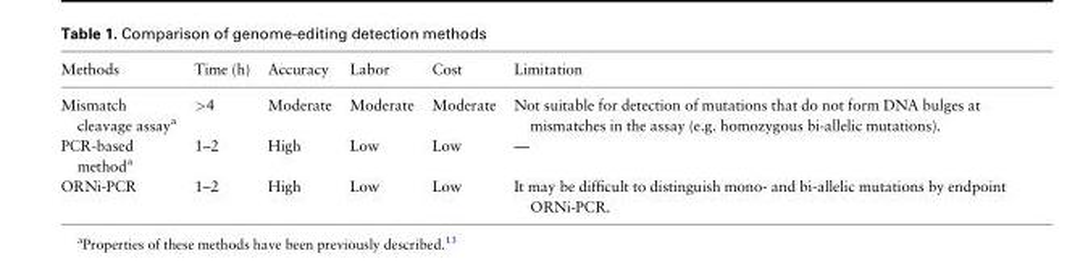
<table><thead><tr><td>Methods</td><td>Time (h)</td><td>Accuracy</td><td>Labor</td><td>Cost</td><td>Limitation</td></tr></thead><tbody><tr><td>Mismatch cleavage assay<sup>a</sup></td><td>&gt;4</td><td>Moderate</td><td>Moderate</td><td>Moderate</td><td>Not suitable for detection of mutations that do not form DNA bulges at mismatches in the assay (e.g. homozygous bi-allelic mutations).</td></tr><tr><td>PCR-based method<sup>a</sup></td><td>1–2</td><td>High</td><td>Low</td><td>Low</td><td>—</td></tr><tr><td>ORNi-PCR</td><td>1–2</td><td>High</td><td>Low</td><td>Low</td><td>It may be difficult to distinguish mono- and bi-allelic mutations by endpoint ORNi-PCR.</td></tr></tbody></table>